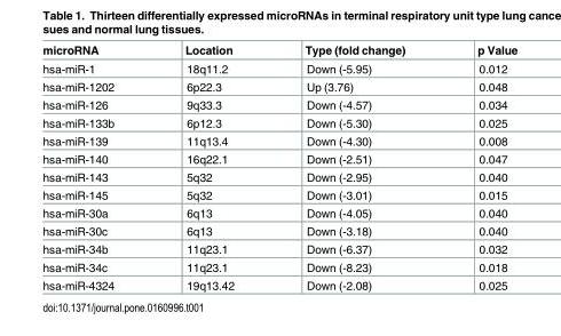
<table><thead><tr><td>microRNA</td><td>Location</td><td>Type (fold change)</td><td>p Value</td></tr></thead><tbody><tr><td>hsa-miR-1</td><td>18q11.2</td><td>Down (-5.95)</td><td>0.012</td></tr><tr><td>hsa-miR-1202</td><td>6p22.3</td><td>Up (3.76)</td><td>0.048</td></tr><tr><td>hsa-miR-126</td><td>9q33.3</td><td>Down (-4.57)</td><td>0.034</td></tr><tr><td>hsa-miR-133b</td><td>6p12.3</td><td>Down (-5.30)</td><td>0.025</td></tr><tr><td>hsa-miR-139</td><td>11q13.4</td><td>Down (-4.30)</td><td>0.008</td></tr><tr><td>hsa-miR-140</td><td>16q22.1</td><td>Down (-2.51)</td><td>0.047</td></tr><tr><td>hsa-miR-143</td><td>5q32</td><td>Down (-2.95)</td><td>0.040</td></tr><tr><td>hsa-miR-145</td><td>5q32</td><td>Down (-3.01)</td><td>0.015</td></tr><tr><td>hsa-miR-30a</td><td>6q13</td><td>Down (-4.05)</td><td>0.040</td></tr><tr><td>hsa-miR-30c</td><td>6q13</td><td>Down (-3.18)</td><td>0.040</td></tr><tr><td>hsa-miR-34b</td><td>11q23.1</td><td>Down (-6.37)</td><td>0.032</td></tr><tr><td>hsa-miR-34c</td><td>11q23.1</td><td>Down (-8.23)</td><td>0.018</td></tr><tr><td>hsa-miR-4324</td><td>19q13.42</td><td>Down (-2.08)</td><td>0.025</td></tr></tbody></table>